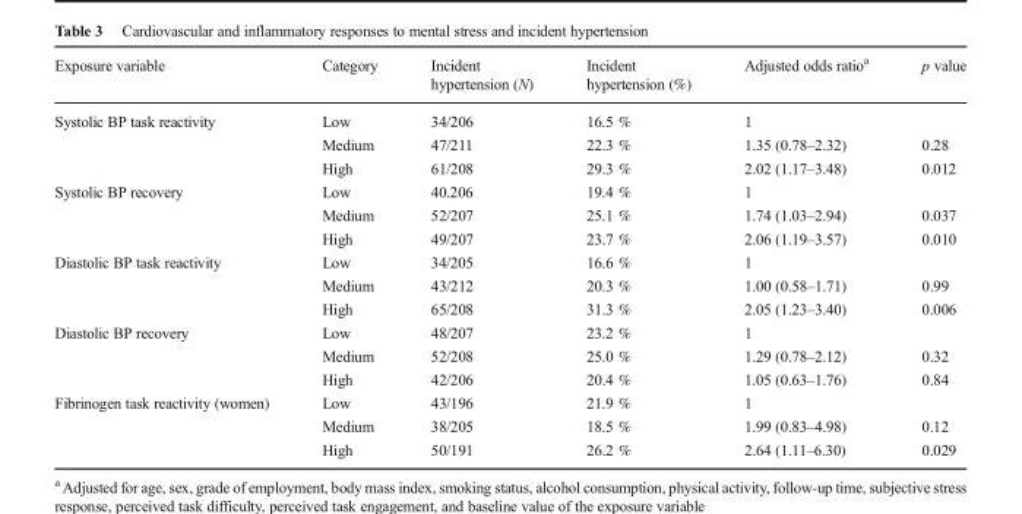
<table><thead><tr><td>Exposure variable</td><td>Category</td><td>Incident hypertension (N)</td><td>Incident hypertension (%)</td><td>Adjusted odds ratio<sup>a</sup></td><td>p value</td></tr></thead><tbody><tr><td rowspan="3">Systolic BP task reactivity</td><td>Low</td><td>34/206</td><td>16.5 %</td><td>1</td><td></td></tr><tr><td>Medium</td><td>47/211</td><td>22.3 %</td><td>1.35 (0.78–2.32)</td><td>0.28</td></tr><tr><td>High</td><td>61/208</td><td>29.3 %</td><td>2.02 (1.17–3.48)</td><td>0.012</td></tr><tr><td rowspan="3">Systolic BP recovery</td><td>Low</td><td>40.206</td><td>19.4 %</td><td>1</td><td></td></tr><tr><td>Medium</td><td>52/207</td><td>25.1 %</td><td>1.74 (1.03–2.94)</td><td>0.037</td></tr><tr><td>High</td><td>49/207</td><td>23.7 %</td><td>2.06 (1.19–3.57)</td><td>0.010</td></tr><tr><td rowspan="3">Diastolic BP task reactivity</td><td>Low</td><td>34/205</td><td>16.6 %</td><td>1</td><td></td></tr><tr><td>Medium</td><td>43/212</td><td>20.3 %</td><td>1.00 (0.58–1.71)</td><td>0.99</td></tr><tr><td>High</td><td>65/208</td><td>31.3 %</td><td>2.05 (1.23–3.40)</td><td>0.006</td></tr><tr><td rowspan="3">Diastolic BP recovery</td><td>Low</td><td>48/207</td><td>23.2 %</td><td>1</td><td></td></tr><tr><td>Medium</td><td>52/208</td><td>25.0 %</td><td>1.29 (0.78–2.12)</td><td>0.32</td></tr><tr><td>High</td><td>42/206</td><td>20.4 %</td><td>1.05 (0.63–1.76)</td><td>0.84</td></tr><tr><td rowspan="3">Fibrinogen task reactivity (women)</td><td>Low</td><td>43/196</td><td>21.9 %</td><td>1</td><td></td></tr><tr><td>Medium</td><td>38/205</td><td>18.5 %</td><td>1.99 (0.83–4.98)</td><td>0.12</td></tr><tr><td>High</td><td>50/191</td><td>26.2 %</td><td>2.64 (1.11–6.30)</td><td>0.029</td></tr></tbody></table>